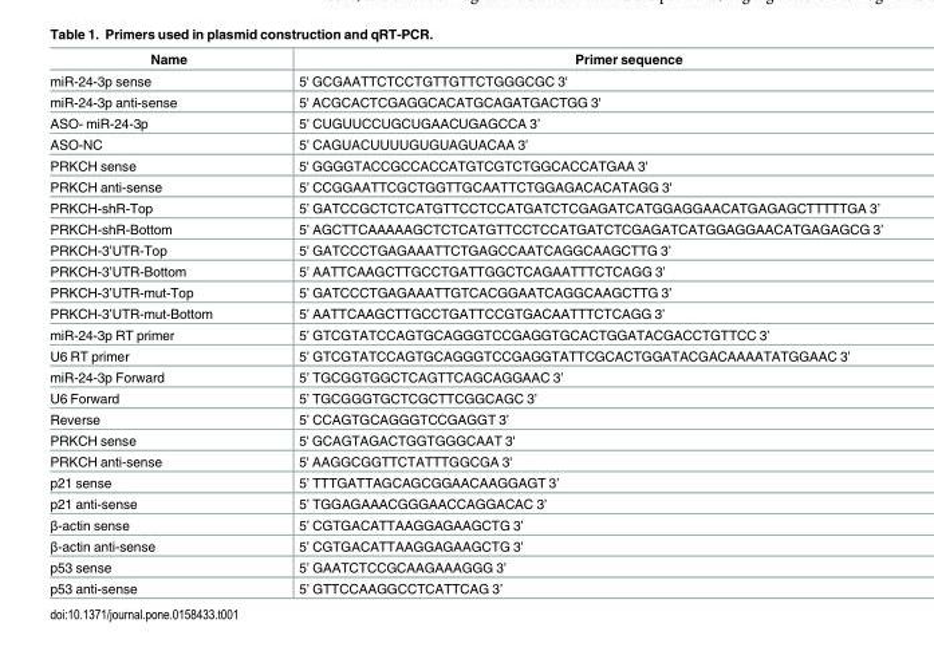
<table><thead><tr><td>Name</td><td>Primer sequence</td></tr></thead><tbody><tr><td>miR-24-3p sense</td><td>5&#x27; GCGAATTCTCCTGTTGTTCTGGGCGC 3&#x27;</td></tr><tr><td>miR-24-3p anti-sense</td><td>5&#x27; ACGCACTCGAGGCACATGCAGATGACTGG 3&#x27;</td></tr><tr><td>ASO- miR-24-3p</td><td>5’ CUGUUCCUGCUGAACUGAGCCA 3’</td></tr><tr><td>ASO-NC</td><td>5’ CAGUACUUUUGUGUAGUACAA 3’</td></tr><tr><td>PRKCH sense</td><td>5&#x27; GGGGTACCGCCACCATGTCGTCTGGCACCATGAA 3&#x27;</td></tr><tr><td>PRKCH anti-sense</td><td>5’ CCGGAATTCGCTGGTTGCAATTCTGGAGACACATAGG 3&#x27;</td></tr><tr><td>PRKCH-shR-Top</td><td>5’ GATCCGCTCTCATGTTCCTCCATGATCTCGAGATCATGGAGGAACATGAGAGCTTTTTGA 3’</td></tr><tr><td>PRKCH-shR-Bottom</td><td>5’ AGCTTCAAAAAGCTCTCATGTTCCTCCATGATCTCGAGATCATGGAGGAACATGAGAGCG 3’</td></tr><tr><td>PRKCH-3’UTR-Top</td><td>5’ GATCCCTGAGAAATTCTGAGCCAATCAGGCAAGCTTG 3’</td></tr><tr><td>PRKCH-3’UTR-Bottom</td><td>5’ AATTCAAGCTTGCCTGATTGGCTCAGAATTTCTCAGG 3’</td></tr><tr><td>PRKCH-3’UTR-mut-Top</td><td>5’ GATCCCTGAGAAATTGTCACGGAATCAGGCAAGCTTG 3’</td></tr><tr><td>PRKCH-3’UTR-mut-Bottom</td><td>5’ AATTCAAGCTTGCCTGATTCCGTGACAATTTCTCAGG 3’</td></tr><tr><td>miR-24-3p RT primer</td><td>5’ GTCGTATCCAGTGCAGGGTCCGAGGTGCACTGGATACGACCTGTTCC 3’</td></tr><tr><td>U6 RT primer</td><td>5’ GTCGTATCCAGTGCAGGGTCCGAGGTATTCGCACTGGATACGACAAAATATGGAAC 3’</td></tr><tr><td>miR-24-3p Forward</td><td>5’ TGCGGTGGCTCAGTTCAGCAGGAAC 3’</td></tr><tr><td>U6 Forward</td><td>5’ TGCGGGTGCTCGCTTCGGCAGC 3’</td></tr><tr><td>Reverse</td><td>5’ CCAGTGCAGGGTCCGAGGT 3’</td></tr><tr><td>PRKCH sense</td><td>5&#x27; GCAGTAGACTGGTGGGCAAT 3&#x27;</td></tr><tr><td>PRKCH anti-sense</td><td>5&#x27; AAGGCGGTTCTATTTGGCGA 3&#x27;</td></tr><tr><td>p21 sense</td><td>5’ TTTGATTAGCAGCGGAACAAGGAGT 3’</td></tr><tr><td>p21 anti-sense</td><td>5’ TGGAGAAACGGGAACCAGGACAC 3’</td></tr><tr><td>β-actin sense</td><td>5’ CGTGACATTAAGGAGAAGCTG 3’</td></tr><tr><td>β-actin anti-sense</td><td>5’ CGTGACATTAAGGAGAAGCTG 3’</td></tr><tr><td>p53 sense</td><td>5’ GAATCTCCGCAAGAAAGGG 3’</td></tr><tr><td>p53 anti-sense</td><td>5’ GTTCCAAGGCCTCATTCAG 3’</td></tr></tbody></table>